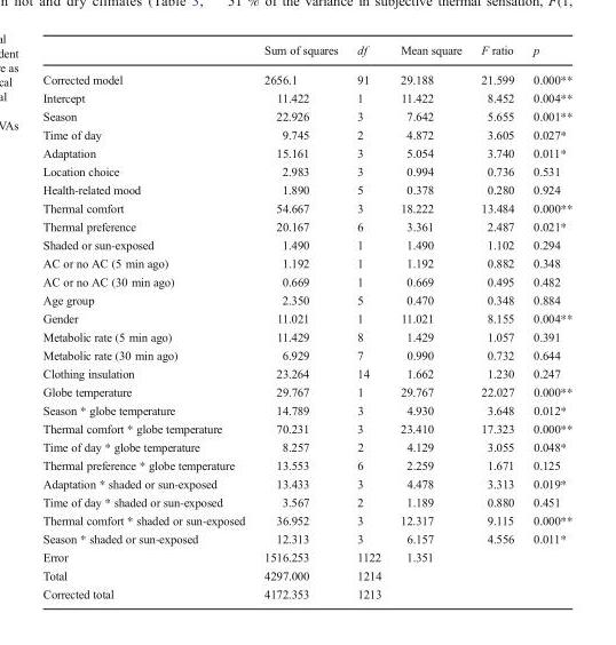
<table><thead><tr><td></td><td>Sum of squares</td><td>df</td><td>Mean square</td><td>F ratio</td><td>p</td></tr></thead><tbody><tr><td>Corrected model</td><td>2656.1</td><td>91</td><td>29.188</td><td>21.599</td><td>0.000**</td></tr><tr><td>Intercept</td><td>11.422</td><td>1</td><td>11.422</td><td>8.452</td><td>0.004**</td></tr><tr><td>Season</td><td>22.926</td><td>3</td><td>7.642</td><td>5.655</td><td>0.001**</td></tr><tr><td>Time of day</td><td>9.745</td><td>2</td><td>4.872</td><td>3.605</td><td>0.027*</td></tr><tr><td>Adaptation</td><td>15.161</td><td>3</td><td>5.054</td><td>3.740</td><td>0.011*</td></tr><tr><td>Location choice</td><td>2.983</td><td>3</td><td>0.994</td><td>0.736</td><td>0.531</td></tr><tr><td>Health-related mood</td><td>1.890</td><td>5</td><td>0.378</td><td>0.280</td><td>0.924</td></tr><tr><td>Thermal comfort</td><td>54.667</td><td>3</td><td>18.222</td><td>13.484</td><td>0.000**</td></tr><tr><td>Thermal preference</td><td>20.167</td><td>6</td><td>3.361</td><td>2.487</td><td>0.021*</td></tr><tr><td>Shaded or sun-exposed</td><td>1.490</td><td>1</td><td>1.490</td><td>1.102</td><td>0.294</td></tr><tr><td>AC or no AC (5 min ago)</td><td>1.192</td><td>1</td><td>1.192</td><td>0.882</td><td>0.348</td></tr><tr><td>AC or no AC (30 min ago)</td><td>0.669</td><td>1</td><td>0.669</td><td>0.495</td><td>0.482</td></tr><tr><td>Age group</td><td>2.350</td><td>5</td><td>0.470</td><td>0.348</td><td>0.884</td></tr><tr><td>Gender</td><td>11.021</td><td>1</td><td>11.021</td><td>8.155</td><td>0.004**</td></tr><tr><td>Metabolic rate (5 min ago)</td><td>11.429</td><td>8</td><td>1.429</td><td>1.057</td><td>0.391</td></tr><tr><td>Metabolic rate (30 min ago)</td><td>6.929</td><td>7</td><td>0.990</td><td>0.732</td><td>0.644</td></tr><tr><td>Clothing insulation</td><td>23.264</td><td>14</td><td>1.662</td><td>1.230</td><td>0.247</td></tr><tr><td>Globe temperature</td><td>29.767</td><td>1</td><td>29.767</td><td>22.027</td><td>0.000**</td></tr><tr><td>Season * globe temperature</td><td>14.789</td><td>3</td><td>4.930</td><td>3.648</td><td>0.012*</td></tr><tr><td>Thermal comfort * globe temperature</td><td>70.231</td><td>3</td><td>23.410</td><td>17.323</td><td>0.000**</td></tr><tr><td>Time of day * globe temperature</td><td>8.257</td><td>2</td><td>4.129</td><td>3.055</td><td>0.048*</td></tr><tr><td>Thermal preference * globe temperature</td><td>13.553</td><td>6</td><td>2.259</td><td>1.671</td><td>0.125</td></tr><tr><td>Adaptation * shaded or sun-exposed</td><td>13.433</td><td>3</td><td>4.478</td><td>3.313</td><td>0.019*</td></tr><tr><td>Time of day * shaded or sun-exposed</td><td>3.567</td><td>2</td><td>1.189</td><td>0.880</td><td>0.451</td></tr><tr><td>Thermal comfort * shaded or sun-exposed</td><td>36.952</td><td>3</td><td>12.317</td><td>9.115</td><td>0.000**</td></tr><tr><td>Season * shaded or sun-exposed</td><td>12.313</td><td>3</td><td>6.157</td><td>4.556</td><td>0.011*</td></tr><tr><td>Error</td><td>1516.253</td><td>1122</td><td>1.351</td><td></td><td></td></tr><tr><td>Total</td><td>4297.000</td><td>1214</td><td></td><td></td><td></td></tr><tr><td>Corrected total</td><td>4172.353</td><td>1213</td><td></td><td></td><td></td></tr></tbody></table>